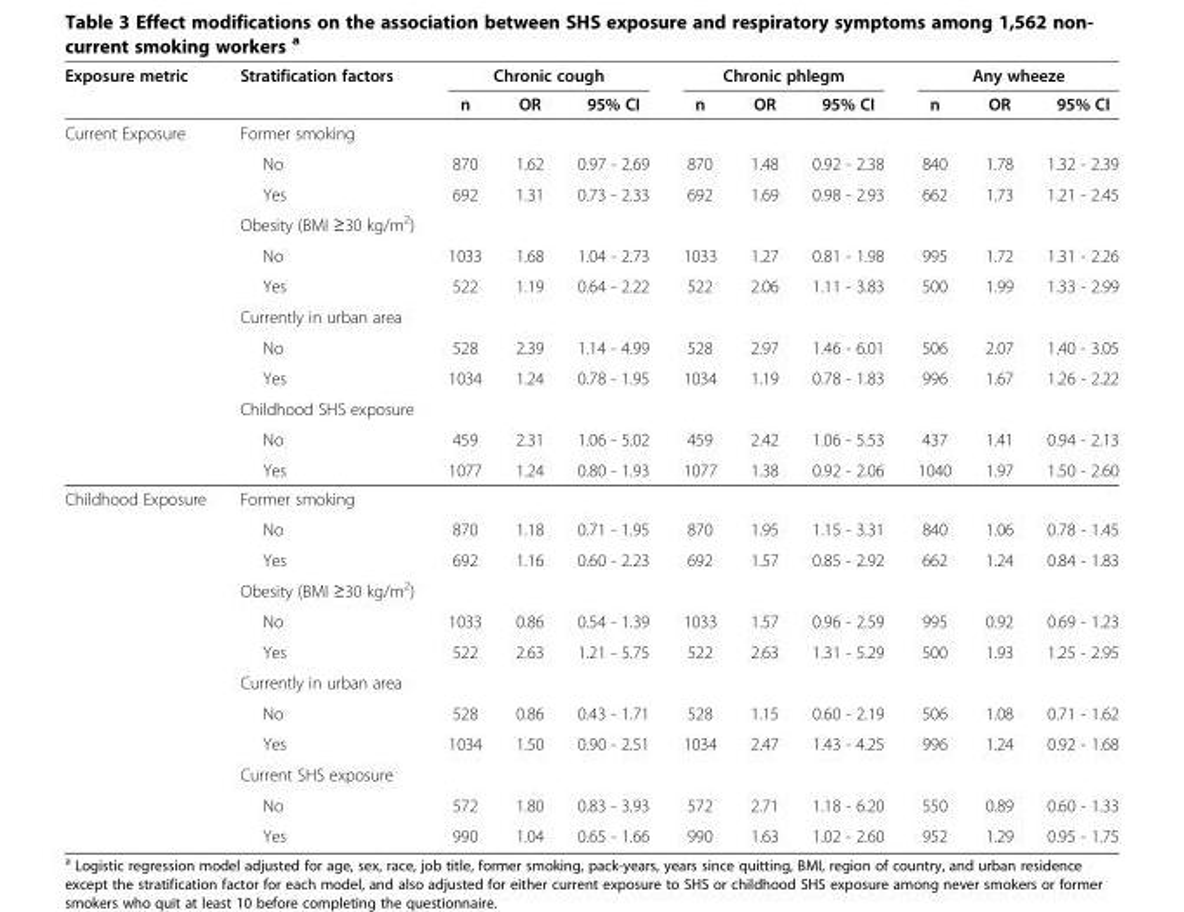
<table><thead><tr><td rowspan="2">Exposure metric</td><td rowspan="2">Stratification factors</td><td colspan="3">Chronic cough</td><td colspan="3">Chronic phlegm</td><td colspan="3">Any wheeze</td></tr><tr><td>n</td><td>OR</td><td>95% CI</td><td>n</td><td>OR</td><td>95% CI</td><td>n</td><td>OR</td><td>95% CI</td></tr></thead><tbody><tr><td rowspan="12">Current Exposure</td><td>Former smoking</td><td></td><td></td><td></td><td></td><td></td><td></td><td></td><td></td><td></td></tr><tr><td>No</td><td>870</td><td>1.62</td><td>0.97 - 2.69</td><td>870</td><td>1.48</td><td>0.92 - 2.38</td><td>840</td><td>1.78</td><td>1.32 - 2.39</td></tr><tr><td>Yes</td><td>692</td><td>1.31</td><td>0.73 - 2.33</td><td>692</td><td>1.69</td><td>0.98 - 2.93</td><td>662</td><td>1.73</td><td>1.21 - 2.45</td></tr><tr><td>Obesity (BMI ≥30 kg/m<sup>2</sup>)</td><td></td><td></td><td></td><td></td><td></td><td></td><td></td><td></td><td></td></tr><tr><td>No</td><td>1033</td><td>1.68</td><td>1.04 - 2.73</td><td>1033</td><td>1.27</td><td>0.81 - 1.98</td><td>995</td><td>1.72</td><td>1.31 - 2.26</td></tr><tr><td>Yes</td><td>522</td><td>1.19</td><td>0.64 - 2.22</td><td>522</td><td>2.06</td><td>1.11 - 3.83</td><td>500</td><td>1.99</td><td>1.33 - 2.99</td></tr><tr><td>Currently in urban area</td><td></td><td></td><td></td><td></td><td></td><td></td><td></td><td></td><td></td></tr><tr><td>No</td><td>528</td><td>2.39</td><td>1.14 - 4.99</td><td>528</td><td>2.97</td><td>1.46 - 6.01</td><td>506</td><td>2.07</td><td>1.40 - 3.05</td></tr><tr><td>Yes</td><td>1034</td><td>1.24</td><td>0.78 - 1.95</td><td>1034</td><td>1.19</td><td>0.78 - 1.83</td><td>996</td><td>1.67</td><td>1.26 - 2.22</td></tr><tr><td>Childhood SHS exposure</td><td></td><td></td><td></td><td></td><td></td><td></td><td></td><td></td><td></td></tr><tr><td>No</td><td>459</td><td>2.31</td><td>1.06 - 5.02</td><td>459</td><td>2.42</td><td>1.06 - 5.53</td><td>437</td><td>1.41</td><td>0.94 - 2.13</td></tr><tr><td>Yes</td><td>1077</td><td>1.24</td><td>0.80 - 1.93</td><td>1077</td><td>1.38</td><td>0.92 - 2.06</td><td>1040</td><td>1.97</td><td>1.50 - 2.60</td></tr><tr><td rowspan="12">Childhood Exposure</td><td>Former smoking</td><td></td><td></td><td></td><td></td><td></td><td></td><td></td><td></td><td></td></tr><tr><td>No</td><td>870</td><td>1.18</td><td>0.71 - 1.95</td><td>870</td><td>1.95</td><td>1.15 - 3.31</td><td>840</td><td>1.06</td><td>0.78 - 1.45</td></tr><tr><td>Yes</td><td>692</td><td>1.16</td><td>0.60 - 2.23</td><td>692</td><td>1.57</td><td>0.85 - 2.92</td><td>662</td><td>1.24</td><td>0.84 - 1.83</td></tr><tr><td>Obesity (BMI ≥30 kg/m<sup>2</sup>)</td><td></td><td></td><td></td><td></td><td></td><td></td><td></td><td></td><td></td></tr><tr><td>No</td><td>1033</td><td>0.86</td><td>0.54 - 1.39</td><td>1033</td><td>1.57</td><td>0.96 - 2.59</td><td>995</td><td>0.92</td><td>0.69 - 1.23</td></tr><tr><td>Yes</td><td>522</td><td>2.63</td><td>1.21 - 5.75</td><td>522</td><td>2.63</td><td>1.31 - 5.29</td><td>500</td><td>1.93</td><td>1.25 - 2.95</td></tr><tr><td>Currently in urban area</td><td></td><td></td><td></td><td></td><td></td><td></td><td></td><td></td><td></td></tr><tr><td>No</td><td>528</td><td>0.86</td><td>0.43 - 1.71</td><td>528</td><td>1.15</td><td>0.60 - 2.19</td><td>506</td><td>1.08</td><td>0.71 - 1.62</td></tr><tr><td>Yes</td><td>1034</td><td>1.50</td><td>0.90 - 2.51</td><td>1034</td><td>2.47</td><td>1.43 - 4.25</td><td>996</td><td>1.24</td><td>0.92 - 1.68</td></tr><tr><td>Current SHS exposure</td><td></td><td></td><td></td><td></td><td></td><td></td><td></td><td></td><td></td></tr><tr><td>No</td><td>572</td><td>1.80</td><td>0.83 - 3.93</td><td>572</td><td>2.71</td><td>1.18 - 6.20</td><td>550</td><td>0.89</td><td>0.60 - 1.33</td></tr><tr><td>Yes</td><td>990</td><td>1.04</td><td>0.65 - 1.66</td><td>990</td><td>1.63</td><td>1.02 - 2.60</td><td>952</td><td>1.29</td><td>0.95 - 1.75</td></tr></tbody></table>